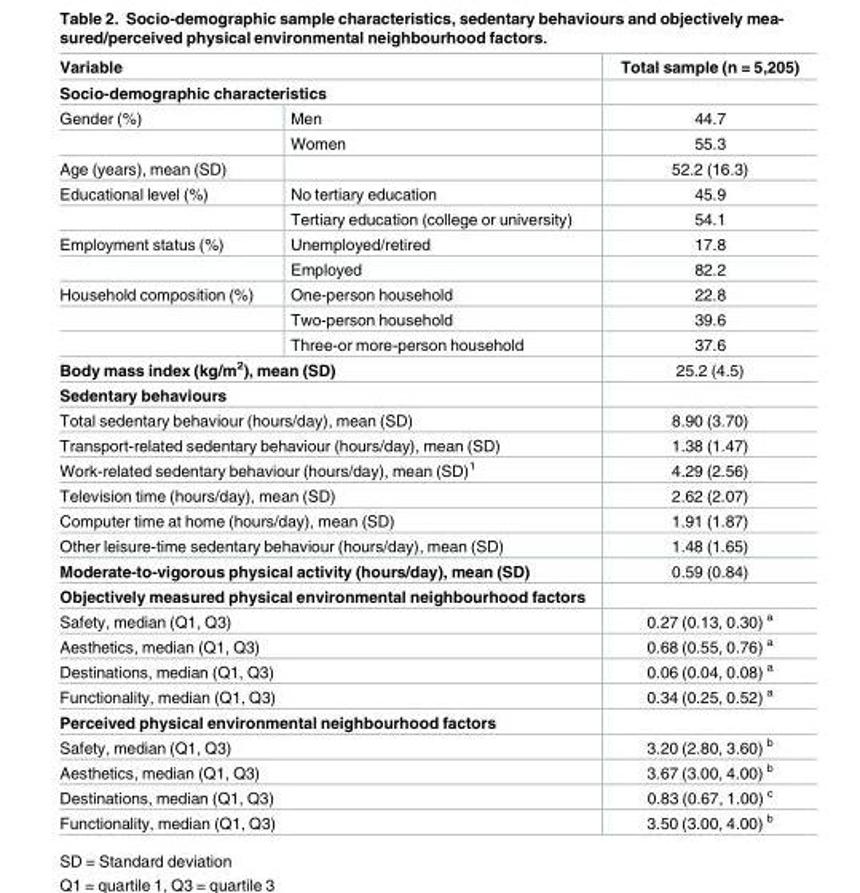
<table><thead><tr><td rowspan="2" colspan="2">Variable Socio-demographic characteristics</td><td rowspan="3">Total sample (n = 5,205) 44.7</td></tr><tr></tr><tr><td>Gender (%)</td><td>Men</td></tr></thead><tbody><tr><td></td><td>Women</td><td>55.3</td></tr><tr><td>Age (years), mean (SD)</td><td></td><td>52.2 (16.3)</td></tr><tr><td rowspan="2">Educational level (%)</td><td>No tertiary education</td><td>45.9</td></tr><tr><td>Tertiary education (college or university)</td><td>54.1</td></tr><tr><td rowspan="2">Employment status (%)</td><td>Unemployed/retired</td><td>17.8</td></tr><tr><td>Employed</td><td>82.2</td></tr><tr><td rowspan="3">Household composition (%)</td><td>One-person household</td><td>22.8</td></tr><tr><td>Two-person household</td><td>39.6</td></tr><tr><td>Three-or more-person household</td><td>37.6</td></tr><tr><td colspan="2">Body mass index (kg/m<sup>2</sup>), mean (SD)</td><td>25.2 (4.5)</td></tr><tr><td colspan="3">Sedentary behaviours</td></tr><tr><td colspan="2">Total sedentary behaviour (hours/day), mean (SD)</td><td>8.90 (3.70)</td></tr><tr><td colspan="2">Transport-related sedentary behaviour (hours/day), mean (SD)</td><td>1.38 (1.47)</td></tr><tr><td colspan="2">Work-related sedentary behaviour (hours/day), mean (SD)<sup>1</sup></td><td>4.29 (2.56)</td></tr><tr><td colspan="2">Television time (hours/day), mean (SD)</td><td>2.62 (2.07)</td></tr><tr><td colspan="2">Computer time at home (hours/day), mean (SD)</td><td>1.91 (1.87)</td></tr><tr><td colspan="2">Other leisure-time sedentary behaviour (hours/day), mean (SD)</td><td>1.48 (1.65)</td></tr><tr><td colspan="2">Moderate-to-vigorous physical activity (hours/day), mean (SD)</td><td>0.59 (0.84)</td></tr><tr><td colspan="3">Objectively measured physical environmental neighbourhood factors</td></tr><tr><td colspan="2">Safety, median (Q1, Q3)</td><td>0.27 (0.13, 0.30) <sup>a</sup></td></tr><tr><td colspan="2">Aesthetics, median (Q1, Q3)</td><td>0.68 (0.55, 0.76) <sup>a</sup></td></tr><tr><td colspan="2">Destinations, median (Q1, Q3)</td><td>0.06 (0.04, 0.08) <sup>a</sup></td></tr><tr><td colspan="2">Functionality, median (Q1, Q3)</td><td>0.34 (0.25, 0.52) <sup>a</sup></td></tr><tr><td colspan="3">Perceived physical environmental neighbourhood factors</td></tr><tr><td colspan="2">Safety, median (Q1, Q3)</td><td>3.20 (2.80, 3.60) <sup>b</sup></td></tr><tr><td colspan="2">Aesthetics, median (Q1, Q3)</td><td>3.67 (3.00, 4.00) <sup>b</sup></td></tr><tr><td colspan="2">Destinations, median (Q1, Q3)</td><td>0.83 (0.67, 1.00) <sup>c</sup></td></tr><tr><td colspan="2">Functionality, median (Q1, Q3)</td><td>3.50 (3.00, 4.00) <sup>b</sup></td></tr></tbody></table>